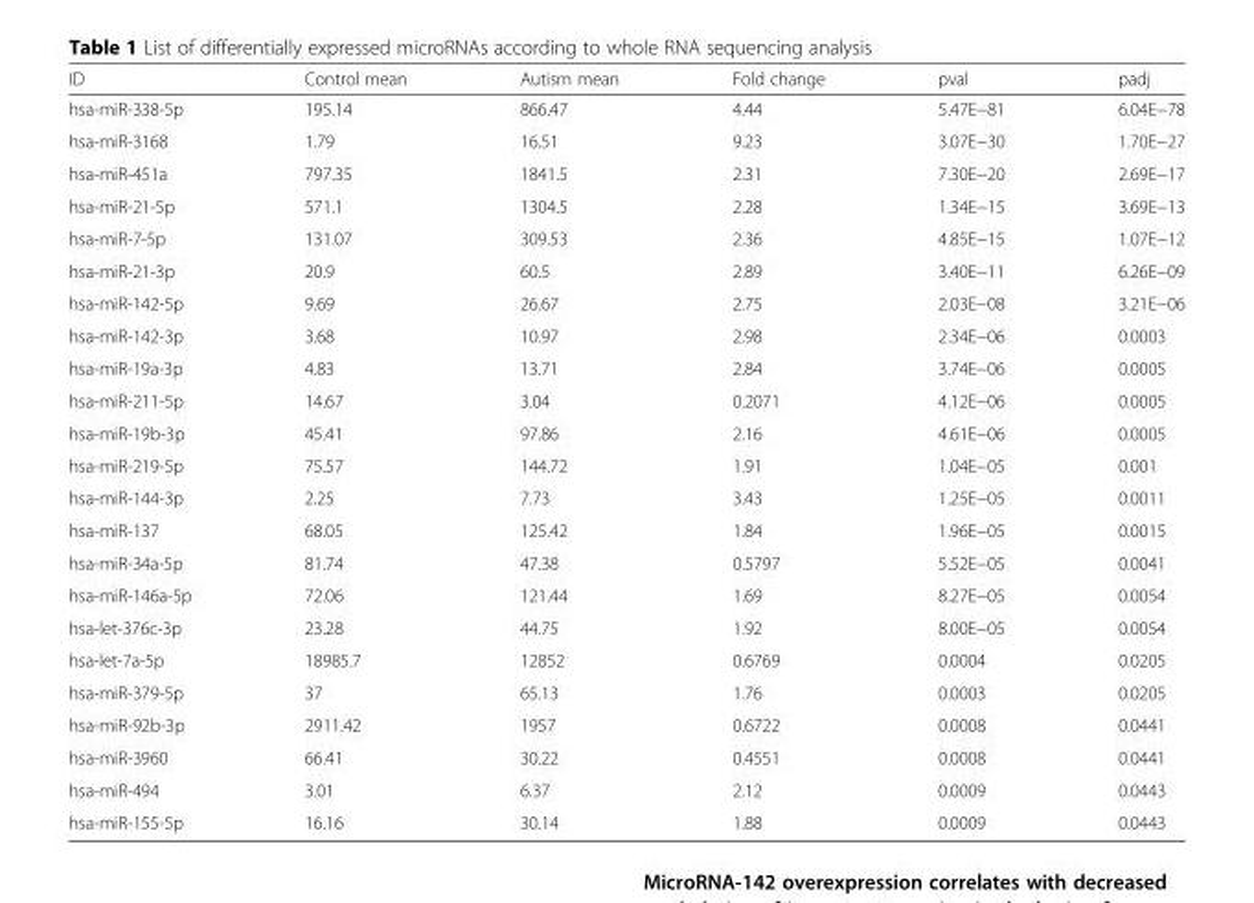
<table><thead><tr><td>ID</td><td>Control mean</td><td>Autism mean</td><td>Fold change</td><td>pval</td><td>padj</td></tr></thead><tbody><tr><td>hsa-miR-338-5p</td><td>195.14</td><td>866.47</td><td>4.44</td><td>5.47E−81</td><td>6.04E−78</td></tr><tr><td>hsa-miR-3168</td><td>1.79</td><td>16.51</td><td>9.23</td><td>3.07E−30</td><td>1.70E−27</td></tr><tr><td>hsa-miR-451a</td><td>797.35</td><td>1841.5</td><td>2.31</td><td>7.30E−20</td><td>2.69E−17</td></tr><tr><td>hsa-miR-21-5p</td><td>571.1</td><td>1304.5</td><td>2.28</td><td>1.34E−15</td><td>3.69E−13</td></tr><tr><td>hsa-miR-7-5p</td><td>131.07</td><td>309.53</td><td>2.36</td><td>4.85E−15</td><td>1.07E−12</td></tr><tr><td>hsa-miR-21-3p</td><td>20.9</td><td>60.5</td><td>2.89</td><td>3.40E−11</td><td>6.26E−09</td></tr><tr><td>hsa-miR-142-5p</td><td>9.69</td><td>26.67</td><td>2.75</td><td>2.03E−08</td><td>3.21E−06</td></tr><tr><td>hsa-miR-142-3p</td><td>3.68</td><td>10.97</td><td>2.98</td><td>2.34E−06</td><td>0.0003</td></tr><tr><td>hsa-miR-19a-3p</td><td>4.83</td><td>13.71</td><td>2.84</td><td>3.74E−06</td><td>0.0005</td></tr><tr><td>hsa-miR-211-5p</td><td>14.67</td><td>3.04</td><td>0.2071</td><td>4.12E−06</td><td>0.0005</td></tr><tr><td>hsa-miR-19b-3p</td><td>45.41</td><td>97.86</td><td>2.16</td><td>4.61E−06</td><td>0.0005</td></tr><tr><td>hsa-miR-219-5p</td><td>75.57</td><td>144.72</td><td>1.91</td><td>1.04E−05</td><td>0.001</td></tr><tr><td>hsa-miR-144-3p</td><td>2.25</td><td>7.73</td><td>3.43</td><td>1.25E−05</td><td>0.0011</td></tr><tr><td>hsa-miR-137</td><td>68.05</td><td>125.42</td><td>1.84</td><td>1.96E−05</td><td>0.0015</td></tr><tr><td>hsa-miR-34a-5p</td><td>81.74</td><td>47.38</td><td>0.5797</td><td>5.52E−05</td><td>0.0041</td></tr><tr><td>hsa-miR-146a-5p</td><td>72.06</td><td>121.44</td><td>1.69</td><td>8.27E−05</td><td>0.0054</td></tr><tr><td>hsa-let-376c-3p</td><td>23.28</td><td>44.75</td><td>1.92</td><td>8.00E−05</td><td>0.0054</td></tr><tr><td>hsa-let-7a-5p</td><td>18985.7</td><td>12852</td><td>0.6769</td><td>0.0004</td><td>0.0205</td></tr><tr><td>hsa-miR-379-5p</td><td>37</td><td>65.13</td><td>1.76</td><td>0.0003</td><td>0.0205</td></tr><tr><td>hsa-miR-92b-3p</td><td>2911.42</td><td>1957</td><td>0.6722</td><td>0.0008</td><td>0.0441</td></tr><tr><td>hsa-miR-3960</td><td>66.41</td><td>30.22</td><td>0.4551</td><td>0.0008</td><td>0.0441</td></tr><tr><td>hsa-miR-494</td><td>3.01</td><td>6.37</td><td>2.12</td><td>0.0009</td><td>0.0443</td></tr><tr><td>hsa-miR-155-5p</td><td>16.16</td><td>30.14</td><td>1.88</td><td>0.0009</td><td>0.0443</td></tr></tbody></table>